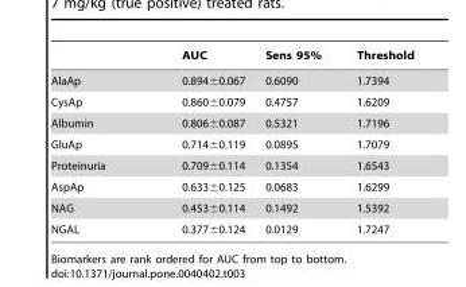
<table><thead><tr><td></td><td>AUC</td><td>Sens 95%</td><td>Threshold</td></tr></thead><tbody><tr><td>AlaAp</td><td>0.894±0.067</td><td>0.6090</td><td>1.7394</td></tr><tr><td>CysAp</td><td>0.860±0.079</td><td>0.4757</td><td>1.6209</td></tr><tr><td>Albumin</td><td>0.806±0.087</td><td>0.5321</td><td>1.7196</td></tr><tr><td>GluAp</td><td>0.714±0.119</td><td>0.0895</td><td>1.7079</td></tr><tr><td>Proteinuria</td><td>0.709±0.114</td><td>0.1354</td><td>1.6543</td></tr><tr><td>AspAp</td><td>0.633±0.125</td><td>0.0683</td><td>1.6299</td></tr><tr><td>NAG</td><td>0.453±0.114</td><td>0.1492</td><td>1.5392</td></tr><tr><td>NGAL</td><td>0.377±0.124</td><td>0.0129</td><td>1.7247</td></tr></tbody></table>